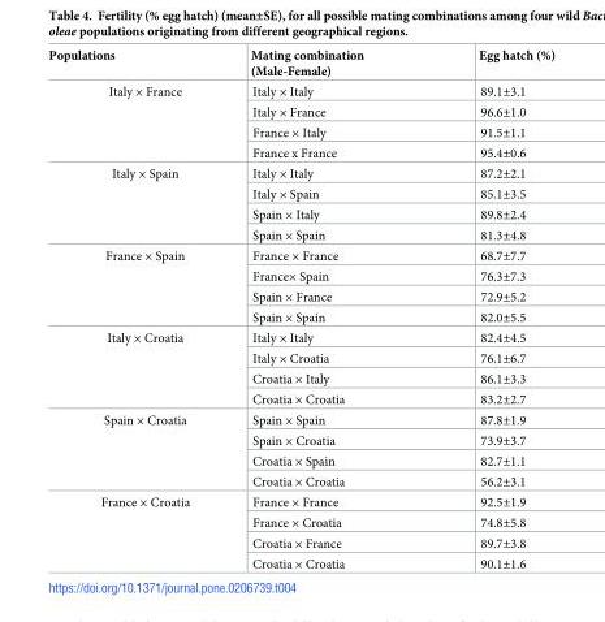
<table><thead><tr><td>Populations</td><td>Mating combination (Male-Female)</td><td>Egg hatch (%)</td></tr></thead><tbody><tr><td rowspan="4">Italy × France</td><td>Italy × Italy</td><td>89.1±3.1</td></tr><tr><td>Italy × France</td><td>96.6±1.0</td></tr><tr><td>France × Italy</td><td>91.5±1.1</td></tr><tr><td>France x France</td><td>95.4±0.6</td></tr><tr><td rowspan="4">Italy × Spain</td><td>Italy × Italy</td><td>87.2±2.1</td></tr><tr><td>Italy × Spain</td><td>85.1±3.5</td></tr><tr><td>Spain × Italy</td><td>89.8±2.4</td></tr><tr><td>Spain × Spain</td><td>81.3±4.8</td></tr><tr><td rowspan="4">France × Spain</td><td>France × France</td><td>68.7±7.7</td></tr><tr><td>France× Spain</td><td>76.3±7.3</td></tr><tr><td>Spain × France</td><td>72.9±5.2</td></tr><tr><td>Spain × Spain</td><td>82.0±5.5</td></tr><tr><td rowspan="4">Italy × Croatia</td><td>Italy × Italy</td><td>82.4±4.5</td></tr><tr><td>Italy × Croatia</td><td>76.1±6.7</td></tr><tr><td>Croatia × Italy</td><td>86.1±3.3</td></tr><tr><td>Croatia × Croatia</td><td>83.2±2.7</td></tr><tr><td rowspan="4">Spain × Croatia</td><td>Spain × Spain</td><td>87.8±1.9</td></tr><tr><td>Spain × Croatia</td><td>73.9±3.7</td></tr><tr><td>Croatia × Spain</td><td>82.7±1.1</td></tr><tr><td>Croatia × Croatia</td><td>56.2±3.1</td></tr><tr><td rowspan="4">France × Croatia</td><td>France × France</td><td>92.5±1.9</td></tr><tr><td>France × Croatia</td><td>74.8±5.8</td></tr><tr><td>Croatia × France</td><td>89.7±3.8</td></tr><tr><td>Croatia × Croatia</td><td>90.1±1.6</td></tr></tbody></table>